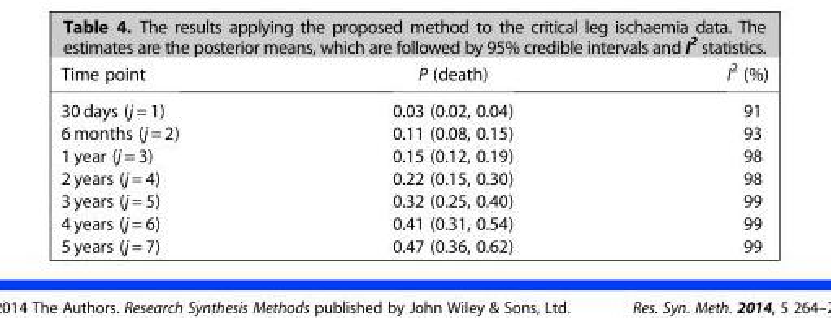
<table><thead><tr><td>Time point</td><td>P (death)</td><td>I<sup>2</sup> (%)</td></tr></thead><tbody><tr><td>30 days (j = 1)</td><td>0.03 (0.02, 0.04)</td><td>91</td></tr><tr><td>6 months (j = 2)</td><td>0.11 (0.08, 0.15)</td><td>93</td></tr><tr><td>1 year (j = 3)</td><td>0.15 (0.12, 0.19)</td><td>98</td></tr><tr><td>2 years (j = 4)</td><td>0.22 (0.15, 0.30)</td><td>98</td></tr><tr><td>3 years (j = 5)</td><td>0.32 (0.25, 0.40)</td><td>99</td></tr><tr><td>4 years (j = 6)</td><td>0.41 (0.31, 0.54)</td><td>99</td></tr><tr><td>5 years (j = 7)</td><td>0.47 (0.36, 0.62)</td><td>99</td></tr></tbody></table>